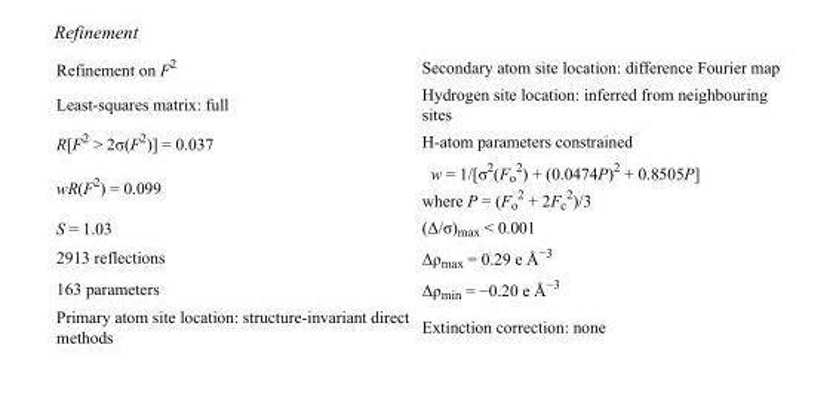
<table><tbody><tr><td>Refinement on F<sup>2</sup></td><td>Secondary atom site location: difference Fourier map</td></tr><tr><td>Least-squares matrix: full</td><td>Hydrogen site location: inferred from neighbouring sites</td></tr><tr><td>R[F<sup>2</sup> &gt; 2σ(F<sup>2</sup>)] = 0.037</td><td>H-atom parameters constrained</td></tr><tr><td>wR(F<sup>2</sup>) = 0.099</td><td>w = 1/[σ<sup>2</sup>(F<sub>o</sub> <sup>2</sup>) + (0.0474P)<sup>2</sup> + 0.8505P] where P = (F<sub>o</sub> <sup>2</sup> + 2F<sub>c</sub> <sup>2</sup>)/3</td></tr><tr><td>S = 1.03</td><td>(Δ/σ)<sub>max</sub> &lt; 0.001</td></tr><tr><td>2913 reflections</td><td>Δρ<sub>max</sub> = 0.29 e Å<sup>−3</sup></td></tr><tr><td>163 parameters</td><td>Δρ<sub>min</sub> = −0.20 e Å<sup>−3</sup></td></tr><tr><td>Primary atom site location: structure-invariant direct methods</td><td>Extinction correction: none</td></tr></tbody></table>